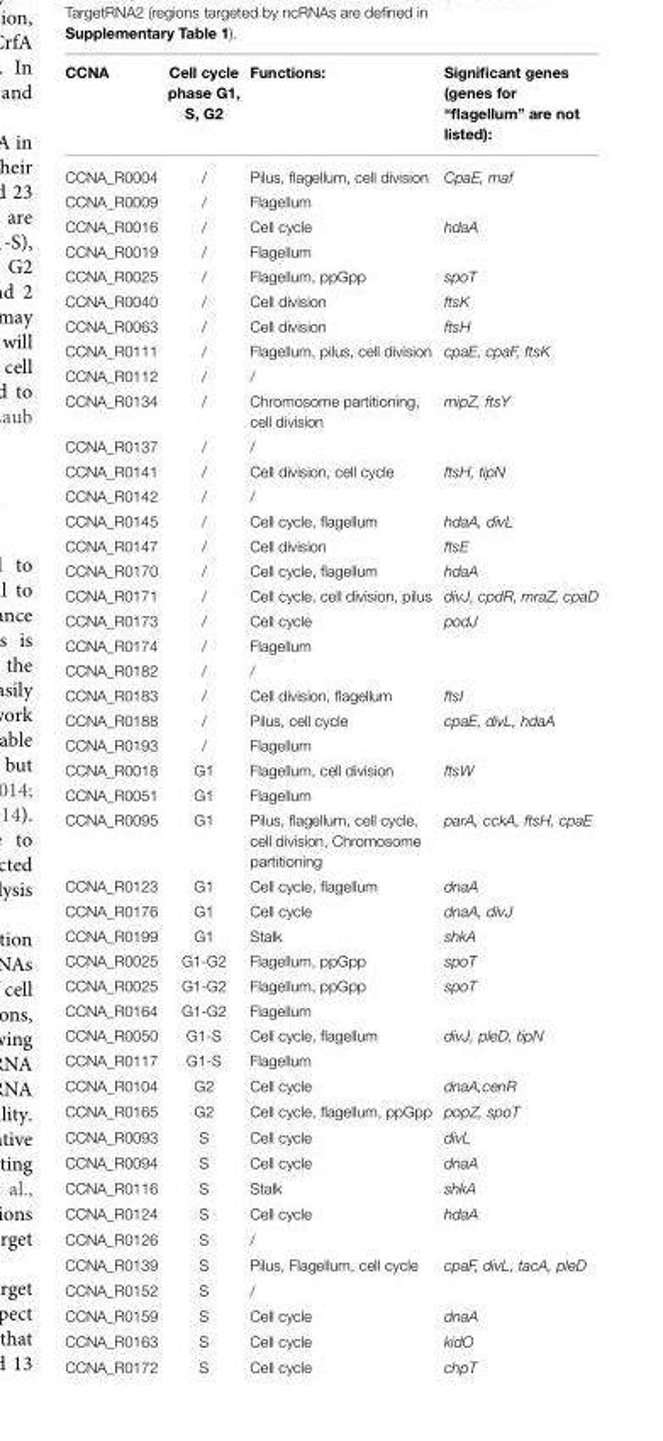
<table><thead><tr><td>CCNA</td><td>Cell cycle phase G1, S, G2</td><td>Functions:</td><td>Significant genes (genes for “flagellum” are not listed):</td></tr></thead><tbody><tr><td>CCNA_R0004</td><td>/</td><td>Pilus, flagellum, cell division</td><td>CpaE, maf</td></tr><tr><td>CCNA_R0009</td><td>/</td><td>Flagellum</td><td></td></tr><tr><td>CCNA_R0016</td><td>/</td><td>Cell cycle</td><td>hdaA</td></tr><tr><td>CCNA_R0019</td><td>/</td><td>Flagellum</td><td></td></tr><tr><td>CCNA_R0025</td><td>/</td><td>Flagellum, ppGpp</td><td>spoT</td></tr><tr><td>CCNA_R0040</td><td>/</td><td>Cell division</td><td>ftsK</td></tr><tr><td>CCNA_R0063</td><td>/</td><td>Cell division</td><td>ftsH</td></tr><tr><td>CCNA_R0111</td><td>/</td><td>Flagellum, pilus, cell division</td><td>cpaE, cpaF, ftsK</td></tr><tr><td>CCNA_R0112</td><td>/</td><td>/</td><td></td></tr><tr><td>CCNA_R0134</td><td>/</td><td>Chromosome partitioning, cell division</td><td>mipZ, ftsY</td></tr><tr><td>CCNA_R0137</td><td>/</td><td>/</td><td></td></tr><tr><td>CCNA_R0141</td><td>/</td><td>Cell division, cell cycle</td><td>ftsH, tipN</td></tr><tr><td>CCNA_R0142</td><td>/</td><td>/</td><td></td></tr><tr><td>CCNA_R0145</td><td>/</td><td>Cell cycle, flagellum</td><td>hdaA, divL</td></tr><tr><td>CCNA_R0147</td><td>/</td><td>Cell division</td><td>ftsE</td></tr><tr><td>CCNA_R0170</td><td>/</td><td>Cell cycle, flagellum</td><td>hdaA</td></tr><tr><td>CCNA_R0171</td><td>/</td><td>Cell cycle, cell division, pilus</td><td>divJ, cpdR, mraZ, cpaD</td></tr><tr><td>CCNA_R0173</td><td>/</td><td>Cell cycle</td><td>podJ</td></tr><tr><td>CCNA_R0174</td><td>/</td><td>Flagellum</td><td></td></tr><tr><td>CCNA_R0182</td><td>/</td><td>/</td><td></td></tr><tr><td>CCNA_R0183</td><td>/</td><td>Cell division, flagellum</td><td>ftsI</td></tr><tr><td>CCNA_R0188</td><td>/</td><td>Pilus, cell cycle</td><td>cpaE, divL, hdaA</td></tr><tr><td>CCNA_R0193</td><td>/</td><td>Flagellum</td><td></td></tr><tr><td>CCNA_R0018</td><td>G1</td><td>Flagellum, cell division</td><td>ftsW</td></tr><tr><td>CCNA_R0051</td><td>G1</td><td>Flagellum</td><td></td></tr><tr><td>CCNA_R0095</td><td>G1</td><td>Pilus, flagellum, cell cycle, cell division, Chromosome partitioning</td><td>parA, cckA, ftsH, cpaE</td></tr><tr><td>CCNA_R0123</td><td>G1</td><td>Cell cycle, flagellum</td><td>dnaA</td></tr><tr><td>CCNA_R0176</td><td>G1</td><td>Cell cycle</td><td>dnaA, divJ</td></tr><tr><td>CCNA_R0199</td><td>G1</td><td>Stalk</td><td>shkA</td></tr><tr><td>CCNA_R0025</td><td>G1-G2</td><td>Flagellum, ppGpp</td><td>spoT</td></tr><tr><td>CCNA_R0025</td><td>G1-G2</td><td>Flagellum, ppGpp</td><td>spoT</td></tr><tr><td>CCNA_R0164</td><td>G1-G2</td><td>Flagellum</td><td></td></tr><tr><td>CCNA_R0050</td><td>G1-S</td><td>Cell cycle, flagellum</td><td>divJ, pleD, tipN</td></tr><tr><td>CCNA_R0117</td><td>G1-S</td><td>Flagellum</td><td></td></tr><tr><td>CCNA_R0104</td><td>G2</td><td>Cell cycle</td><td>dnaA,cenR</td></tr><tr><td>CCNA_R0165</td><td>G2</td><td>Cell cycle, flagellum, ppGpp</td><td>popZ, spoT</td></tr><tr><td>CCNA_R0093</td><td>S</td><td>Cell cycle</td><td>divL</td></tr><tr><td>CCNA_R0094</td><td>S</td><td>Cell cycle</td><td>dnaA</td></tr><tr><td>CCNA_R0116</td><td>S</td><td>Stalk</td><td>shkA</td></tr><tr><td>CCNA_R0124</td><td>S</td><td>Cell cycle</td><td>hdaA</td></tr><tr><td>CCNA_R0126</td><td>S</td><td>/</td><td></td></tr><tr><td>CCNA_R0139</td><td>S</td><td>Pilus, Flagellum, cell cycle</td><td>cpaF, divL, tacA, pleD</td></tr><tr><td>CCNA_R0152</td><td>S</td><td>/</td><td></td></tr><tr><td>CCNA_R0159</td><td>S</td><td>Cell cycle</td><td>dnaA</td></tr><tr><td>CCNA_R0163</td><td>S</td><td>Cell cycle</td><td>kidO</td></tr><tr><td>CCNA_R0172</td><td>S</td><td>Cell cycle</td><td>chpT</td></tr></tbody></table>